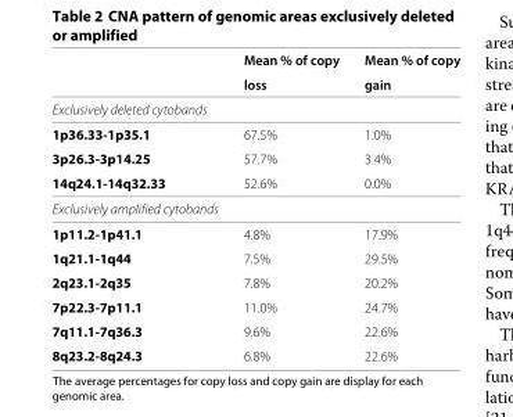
<table><thead><tr><td rowspan="2"></td><td rowspan="2">Mean % of copy loss</td><td rowspan="2">Mean % of copy gain</td></tr><tr></tr></thead><tbody><tr><td colspan="3">Exclusively deleted cytobands</td></tr><tr><td>1p36.33-1p35.1</td><td>67.5%</td><td>1.0%</td></tr><tr><td>3p26.3-3p14.25</td><td>57.7%</td><td>3.4%</td></tr><tr><td>14q24.1-14q32.33</td><td>52.6%</td><td>0.0%</td></tr><tr><td colspan="3">Exclusively amplified cytobands</td></tr><tr><td>1p11.2-1p41.1</td><td>4.8%</td><td>17.9%</td></tr><tr><td>1q21.1-1q44</td><td>7.5%</td><td>29.5%</td></tr><tr><td>2q23.1-2q35</td><td>7.8%</td><td>20.2%</td></tr><tr><td>7p22.3-7p11.1</td><td>11.0%</td><td>24.7%</td></tr><tr><td>7q11.1-7q36.3</td><td>9.6%</td><td>22.6%</td></tr><tr><td>8q23.2-8q24.3</td><td>6.8%</td><td>22.6%</td></tr></tbody></table>